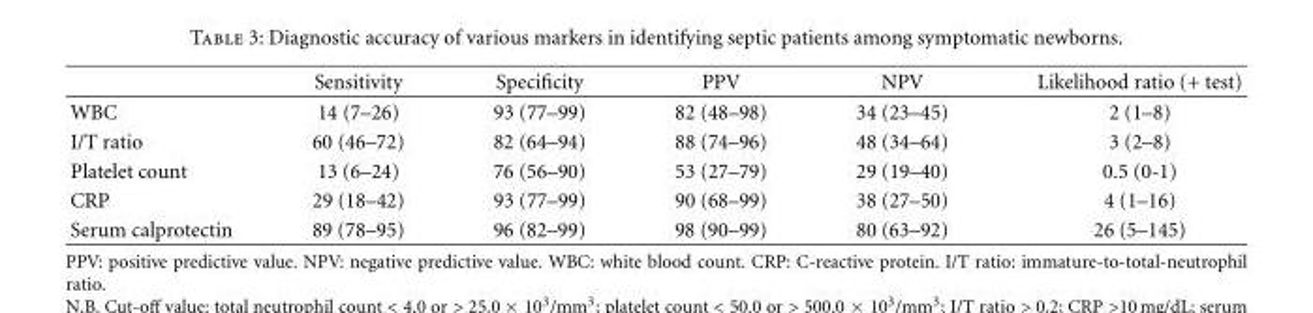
<table><thead><tr><td></td><td>Sensitivity</td><td>Specificity</td><td>PPV</td><td>NPV</td><td>Likelihood ratio (+ test)</td></tr></thead><tbody><tr><td>WBC</td><td>14 (7–26)</td><td>93 (77–99)</td><td>82 (48–98)</td><td>34 (23–45)</td><td>2 (1–8)</td></tr><tr><td>I/T ratio</td><td>60 (46–72)</td><td>82 (64–94)</td><td>88 (74–96)</td><td>48 (34–64)</td><td>3 (2–8)</td></tr><tr><td>Platelet count</td><td>13 (6–24)</td><td>76 (56–90)</td><td>53 (27–79)</td><td>29 (19–40)</td><td>0.5 (0-1)</td></tr><tr><td>CRP</td><td>29 (18–42)</td><td>93 (77–99)</td><td>90 (68–99)</td><td>38 (27–50)</td><td>4 (1–16)</td></tr><tr><td>Serum calprotectin</td><td>89 (78–95)</td><td>96 (82–99)</td><td>98 (90–99)</td><td>80 (63–92)</td><td>26 (5–145)</td></tr></tbody></table>